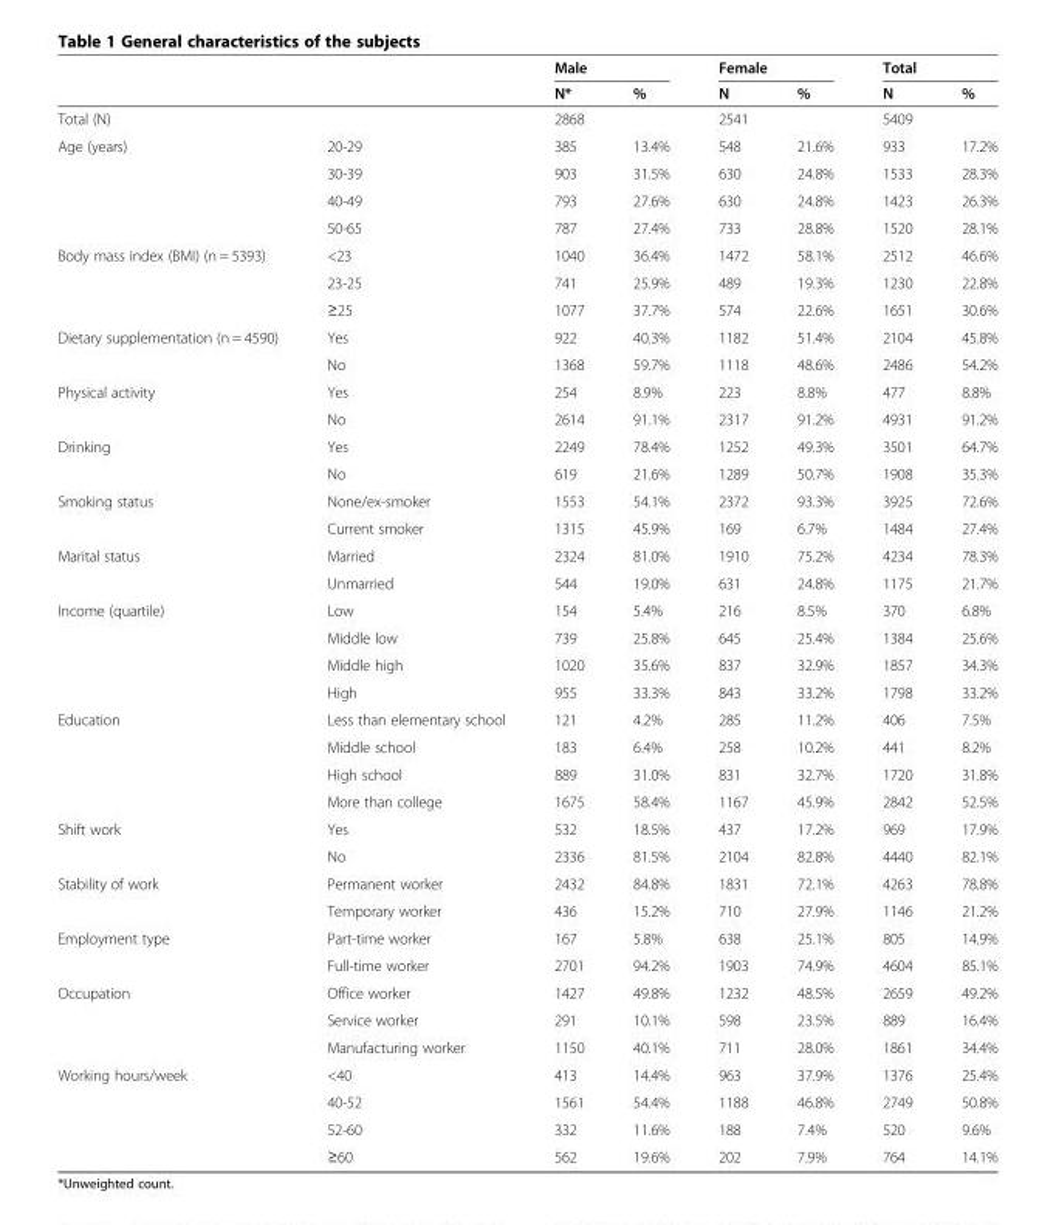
<table><thead><tr><td rowspan="2"></td><td rowspan="2"></td><td colspan="2">Male</td><td colspan="2">Female</td><td colspan="2">Total</td></tr><tr><td>N*</td><td>%</td><td>N</td><td>%</td><td>N</td><td>%</td></tr></thead><tbody><tr><td colspan="2">Total (N)</td><td colspan="2">2868</td><td colspan="2">2541</td><td colspan="2">5409</td></tr><tr><td rowspan="4">Age (years)</td><td>20-29</td><td>385</td><td>13.4%</td><td>548</td><td>21.6%</td><td>933</td><td>17.2%</td></tr><tr><td>30-39</td><td>903</td><td>31.5%</td><td>630</td><td>24.8%</td><td>1533</td><td>28.3%</td></tr><tr><td>40-49</td><td>793</td><td>27.6%</td><td>630</td><td>24.8%</td><td>1423</td><td>26.3%</td></tr><tr><td>50-65</td><td>787</td><td>27.4%</td><td>733</td><td>28.8%</td><td>1520</td><td>28.1%</td></tr><tr><td rowspan="3">Body mass index (BMI) (n = 5393)</td><td>&lt;23</td><td>1040</td><td>36.4%</td><td>1472</td><td>58.1%</td><td>2512</td><td>46.6%</td></tr><tr><td>23-25</td><td>741</td><td>25.9%</td><td>489</td><td>19.3%</td><td>1230</td><td>22.8%</td></tr><tr><td>≥25</td><td>1077</td><td>37.7%</td><td>574</td><td>22.6%</td><td>1651</td><td>30.6%</td></tr><tr><td rowspan="2">Dietary supplementation (n = 4590)</td><td>Yes</td><td>922</td><td>40.3%</td><td>1182</td><td>51.4%</td><td>2104</td><td>45.8%</td></tr><tr><td>No</td><td>1368</td><td>59.7%</td><td>1118</td><td>48.6%</td><td>2486</td><td>54.2%</td></tr><tr><td rowspan="2">Physical activity</td><td>Yes</td><td>254</td><td>8.9%</td><td>223</td><td>8.8%</td><td>477</td><td>8.8%</td></tr><tr><td>No</td><td>2614</td><td>91.1%</td><td>2317</td><td>91.2%</td><td>4931</td><td>91.2%</td></tr><tr><td rowspan="2">Drinking</td><td>Yes</td><td>2249</td><td>78.4%</td><td>1252</td><td>49.3%</td><td>3501</td><td>64.7%</td></tr><tr><td>No</td><td>619</td><td>21.6%</td><td>1289</td><td>50.7%</td><td>1908</td><td>35.3%</td></tr><tr><td rowspan="2">Smoking status</td><td>None/ex-smoker</td><td>1553</td><td>54.1%</td><td>2372</td><td>93.3%</td><td>3925</td><td>72.6%</td></tr><tr><td>Current smoker</td><td>1315</td><td>45.9%</td><td>169</td><td>6.7%</td><td>1484</td><td>27.4%</td></tr><tr><td rowspan="2">Marital status</td><td>Married</td><td>2324</td><td>81.0%</td><td>1910</td><td>75.2%</td><td>4234</td><td>78.3%</td></tr><tr><td>Unmarried</td><td>544</td><td>19.0%</td><td>631</td><td>24.8%</td><td>1175</td><td>21.7%</td></tr><tr><td rowspan="4">Income (quartile)</td><td>Low</td><td>154</td><td>5.4%</td><td>216</td><td>8.5%</td><td>370</td><td>6.8%</td></tr><tr><td>Middle low</td><td>739</td><td>25.8%</td><td>645</td><td>25.4%</td><td>1384</td><td>25.6%</td></tr><tr><td>Middle high</td><td>1020</td><td>35.6%</td><td>837</td><td>32.9%</td><td>1857</td><td>34.3%</td></tr><tr><td>High</td><td>955</td><td>33.3%</td><td>843</td><td>33.2%</td><td>1798</td><td>33.2%</td></tr><tr><td rowspan="4">Education</td><td>Less than elementary school</td><td>121</td><td>4.2%</td><td>285</td><td>11.2%</td><td>406</td><td>7.5%</td></tr><tr><td>Middle school</td><td>183</td><td>6.4%</td><td>258</td><td>10.2%</td><td>441</td><td>8.2%</td></tr><tr><td>High school</td><td>889</td><td>31.0%</td><td>831</td><td>32.7%</td><td>1720</td><td>31.8%</td></tr><tr><td>More than college</td><td>1675</td><td>58.4%</td><td>1167</td><td>45.9%</td><td>2842</td><td>52.5%</td></tr><tr><td rowspan="2">Shift work</td><td>Yes</td><td>532</td><td>18.5%</td><td>437</td><td>17.2%</td><td>969</td><td>17.9%</td></tr><tr><td>No</td><td>2336</td><td>81.5%</td><td>2104</td><td>82.8%</td><td>4440</td><td>82.1%</td></tr><tr><td rowspan="2">Stability of work</td><td>Permanent worker</td><td>2432</td><td>84.8%</td><td>1831</td><td>72.1%</td><td>4263</td><td>78.8%</td></tr><tr><td>Temporary worker</td><td>436</td><td>15.2%</td><td>710</td><td>27.9%</td><td>1146</td><td>21.2%</td></tr><tr><td rowspan="2">Employment type</td><td>Part-time worker</td><td>167</td><td>5.8%</td><td>638</td><td>25.1%</td><td>805</td><td>14.9%</td></tr><tr><td>Full-time worker</td><td>2701</td><td>94.2%</td><td>1903</td><td>74.9%</td><td>4604</td><td>85.1%</td></tr><tr><td rowspan="3">Occupation</td><td>Office worker</td><td>1427</td><td>49.8%</td><td>1232</td><td>48.5%</td><td>2659</td><td>49.2%</td></tr><tr><td>Service worker</td><td>291</td><td>10.1%</td><td>598</td><td>23.5%</td><td>889</td><td>16.4%</td></tr><tr><td>Manufacturing worker</td><td>1150</td><td>40.1%</td><td>711</td><td>28.0%</td><td>1861</td><td>34.4%</td></tr><tr><td rowspan="4">Working hours/week</td><td>&lt;40</td><td>413</td><td>14.4%</td><td>963</td><td>37.9%</td><td>1376</td><td>25.4%</td></tr><tr><td>40-52</td><td>1561</td><td>54.4%</td><td>1188</td><td>46.8%</td><td>2749</td><td>50.8%</td></tr><tr><td>52-60</td><td>332</td><td>11.6%</td><td>188</td><td>7.4%</td><td>520</td><td>9.6%</td></tr><tr><td>≥60</td><td>562</td><td>19.6%</td><td>202</td><td>7.9%</td><td>764</td><td>14.1%</td></tr></tbody></table>